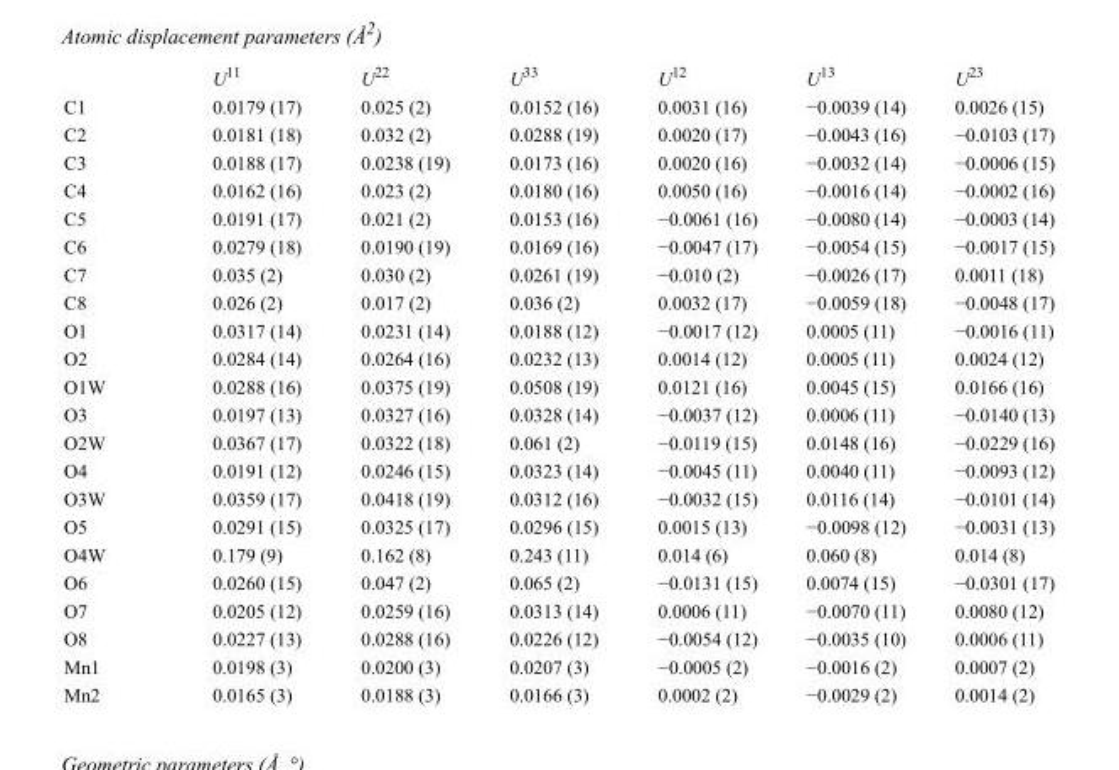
<table><thead><tr><td></td><td>U<sup>11</sup></td><td>U<sup>22</sup></td><td>U<sup>33</sup></td><td>U<sup>12</sup></td><td>U<sup>13</sup></td><td>U<sup>23</sup></td></tr></thead><tbody><tr><td>C1</td><td>0.0179 (17)</td><td>0.025 (2)</td><td>0.0152 (16)</td><td>0.0031 (16)</td><td>−0.0039 (14)</td><td>0.0026 (15)</td></tr><tr><td>C2</td><td>0.0181 (18)</td><td>0.032 (2)</td><td>0.0288 (19)</td><td>0.0020 (17)</td><td>−0.0043 (16)</td><td>−0.0103 (17)</td></tr><tr><td>C3</td><td>0.0188 (17)</td><td>0.0238 (19)</td><td>0.0173 (16)</td><td>0.0020 (16)</td><td>−0.0032 (14)</td><td>−0.0006 (15)</td></tr><tr><td>C4</td><td>0.0162 (16)</td><td>0.023 (2)</td><td>0.0180 (16)</td><td>0.0050 (16)</td><td>−0.0016 (14)</td><td>−0.0002 (16)</td></tr><tr><td>C5</td><td>0.0191 (17)</td><td>0.021 (2)</td><td>0.0153 (16)</td><td>−0.0061 (16)</td><td>−0.0080 (14)</td><td>−0.0003 (14)</td></tr><tr><td>C6</td><td>0.0279 (18)</td><td>0.0190 (19)</td><td>0.0169 (16)</td><td>−0.0047 (17)</td><td>−0.0054 (15)</td><td>−0.0017 (15)</td></tr><tr><td>C7</td><td>0.035 (2)</td><td>0.030 (2)</td><td>0.0261 (19)</td><td>−0.010 (2)</td><td>−0.0026 (17)</td><td>0.0011 (18)</td></tr><tr><td>C8</td><td>0.026 (2)</td><td>0.017 (2)</td><td>0.036 (2)</td><td>0.0032 (17)</td><td>−0.0059 (18)</td><td>−0.0048 (17)</td></tr><tr><td>O1</td><td>0.0317 (14)</td><td>0.0231 (14)</td><td>0.0188 (12)</td><td>−0.0017 (12)</td><td>0.0005 (11)</td><td>−0.0016 (11)</td></tr><tr><td>O2</td><td>0.0284 (14)</td><td>0.0264 (16)</td><td>0.0232 (13)</td><td>0.0014 (12)</td><td>0.0005 (11)</td><td>0.0024 (12)</td></tr><tr><td>O1W</td><td>0.0288 (16)</td><td>0.0375 (19)</td><td>0.0508 (19)</td><td>0.0121 (16)</td><td>0.0045 (15)</td><td>0.0166 (16)</td></tr><tr><td>O3</td><td>0.0197 (13)</td><td>0.0327 (16)</td><td>0.0328 (14)</td><td>−0.0037 (12)</td><td>0.0006 (11)</td><td>−0.0140 (13)</td></tr><tr><td>O2W</td><td>0.0367 (17)</td><td>0.0322 (18)</td><td>0.061 (2)</td><td>−0.0119 (15)</td><td>0.0148 (16)</td><td>−0.0229 (16)</td></tr><tr><td>O4</td><td>0.0191 (12)</td><td>0.0246 (15)</td><td>0.0323 (14)</td><td>−0.0045 (11)</td><td>0.0040 (11)</td><td>−0.0093 (12)</td></tr><tr><td>O3W</td><td>0.0359 (17)</td><td>0.0418 (19)</td><td>0.0312 (16)</td><td>−0.0032 (15)</td><td>0.0116 (14)</td><td>−0.0101 (14)</td></tr><tr><td>O5</td><td>0.0291 (15)</td><td>0.0325 (17)</td><td>0.0296 (15)</td><td>0.0015 (13)</td><td>−0.0098 (12)</td><td>−0.0031 (13)</td></tr><tr><td>O4W</td><td>0.179 (9)</td><td>0.162 (8)</td><td>0.243 (11)</td><td>0.014 (6)</td><td>0.060 (8)</td><td>0.014 (8)</td></tr><tr><td>O6</td><td>0.0260 (15)</td><td>0.047 (2)</td><td>0.065 (2)</td><td>−0.0131 (15)</td><td>0.0074 (15)</td><td>−0.0301 (17)</td></tr><tr><td>O7</td><td>0.0205 (12)</td><td>0.0259 (16)</td><td>0.0313 (14)</td><td>0.0006 (11)</td><td>−0.0070 (11)</td><td>0.0080 (12)</td></tr><tr><td>O8</td><td>0.0227 (13)</td><td>0.0288 (16)</td><td>0.0226 (12)</td><td>−0.0054 (12)</td><td>−0.0035 (10)</td><td>0.0006 (11)</td></tr><tr><td>Mn1</td><td>0.0198 (3)</td><td>0.0200 (3)</td><td>0.0207 (3)</td><td>−0.0005 (2)</td><td>−0.0016 (2)</td><td>0.0007 (2)</td></tr><tr><td>Mn2</td><td>0.0165 (3)</td><td>0.0188 (3)</td><td>0.0166 (3)</td><td>0.0002 (2)</td><td>−0.0029 (2)</td><td>0.0014 (2)</td></tr></tbody></table>